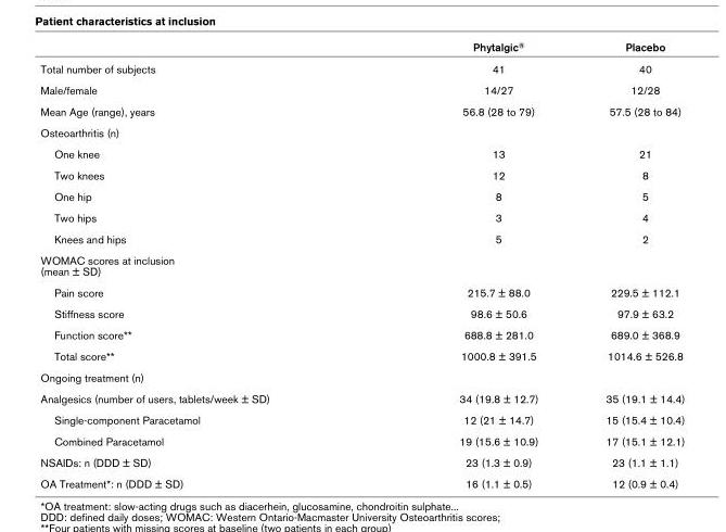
<table><thead><tr><td></td><td>Phytalgic<sup>®</sup></td><td>Placebo</td></tr></thead><tbody><tr><td>Total number of subjects</td><td>41</td><td>40</td></tr><tr><td>Male/female</td><td>14/27</td><td>12/28</td></tr><tr><td>Mean Age (range), years</td><td>56.8 (28 to 79)</td><td>57.5 (28 to 84)</td></tr><tr><td colspan="3">Osteoarthritis (n)</td></tr><tr><td>One knee</td><td>13</td><td>21</td></tr><tr><td>Two knees</td><td>12</td><td>8</td></tr><tr><td>One hip</td><td>8</td><td>5</td></tr><tr><td>Two hips</td><td>3</td><td>4</td></tr><tr><td>Knees and hips</td><td>5</td><td>2</td></tr><tr><td colspan="3">WOMAC scores at inclusion (mean ± SD)</td></tr><tr><td>Pain score</td><td>215.7 ± 88.0</td><td>229.5 ± 112.1</td></tr><tr><td>Stiffness score</td><td>98.6 ± 50.6</td><td>97.9 ± 63.2</td></tr><tr><td>Function score**</td><td>688.8 ± 281.0</td><td>689.0 ± 368.9</td></tr><tr><td>Total score**</td><td>1000.8 ± 391.5</td><td>1014.6 ± 526.8</td></tr><tr><td colspan="3">Ongoing treatment (n)</td></tr><tr><td>Analgesics (number of users, tablets/week ± SD)</td><td>34 (19.8 ± 12.7)</td><td>35 (19.1 ± 14.4)</td></tr><tr><td>Single-component Paracetamol</td><td>12 (21 ± 14.7)</td><td>15 (15.4 ± 10.4)</td></tr><tr><td>Combined Paracetamol</td><td>19 (15.6 ± 10.9)</td><td>17 (15.1 ± 12.1)</td></tr><tr><td>NSAIDs: n (DDD ± SD)</td><td>23 (1.3 ± 0.9)</td><td>23 (1.1 ± 1.1)</td></tr><tr><td>OA Treatment*: n (DDD ± SD)</td><td>16 (1.1 ± 0.5)</td><td>12 (0.9 ± 0.4)</td></tr></tbody></table>